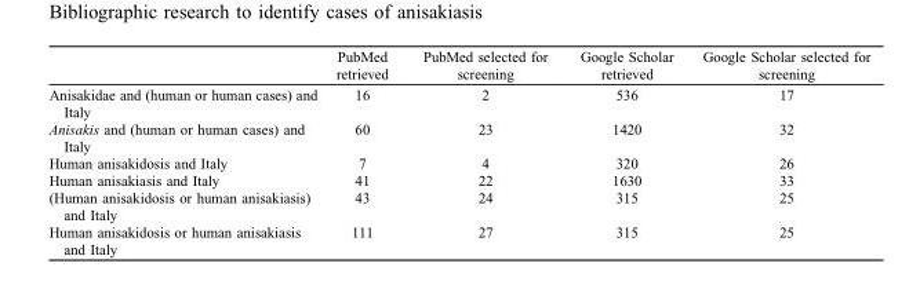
<table><thead><tr><td></td><td>PubMed retrieved</td><td>PubMed selected for screening</td><td>Google Scholar retrieved</td><td>Google Scholar selected for screening</td></tr></thead><tbody><tr><td>Anisakidae and (human or human cases) and Italy</td><td>16</td><td>2</td><td>536</td><td>17</td></tr><tr><td>Anisakis and (human or human cases) and Italy</td><td>60</td><td>23</td><td>1420</td><td>32</td></tr><tr><td>Human anisakidosis and Italy</td><td>7</td><td>4</td><td>320</td><td>26</td></tr><tr><td>Human anisakiasis and Italy</td><td>41</td><td>22</td><td>1630</td><td>33</td></tr><tr><td>(Human anisakidosis or human anisakiasis) and Italy</td><td>43</td><td>24</td><td>315</td><td>25</td></tr><tr><td>Human anisakidosis or human anisakiasis and Italy</td><td>111</td><td>27</td><td>315</td><td>25</td></tr></tbody></table>